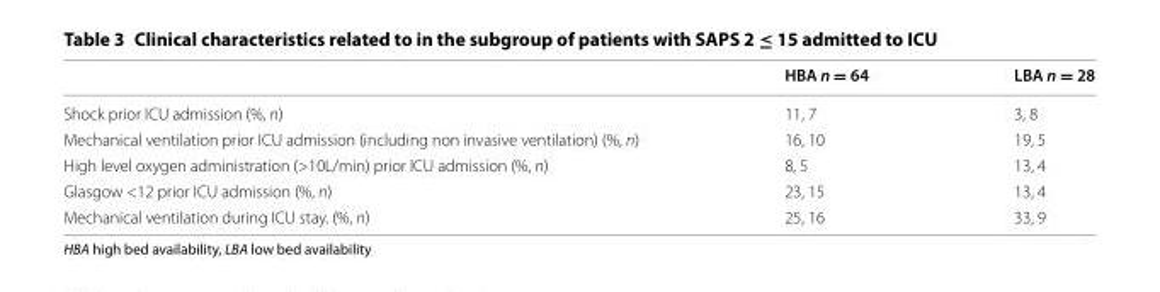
<table><thead><tr><td></td><td>HBA n = 64</td><td>LBA n = 28</td></tr></thead><tbody><tr><td>Shock prior ICU admission (%, n)</td><td>11, 7</td><td>3, 8</td></tr><tr><td>Mechanical ventilation prior ICU admission (including non invasive ventilation) (%, n)</td><td>16, 10</td><td>19, 5</td></tr><tr><td>High level oxygen administration (&gt;10L/min) prior ICU admission (%, n)</td><td>8, 5</td><td>13, 4</td></tr><tr><td>Glasgow &lt;12 prior ICU admission (%, n)</td><td>23, 15</td><td>13, 4</td></tr><tr><td>Mechanical ventilation during ICU stay. (%, n)</td><td>25, 16</td><td>33, 9</td></tr></tbody></table>